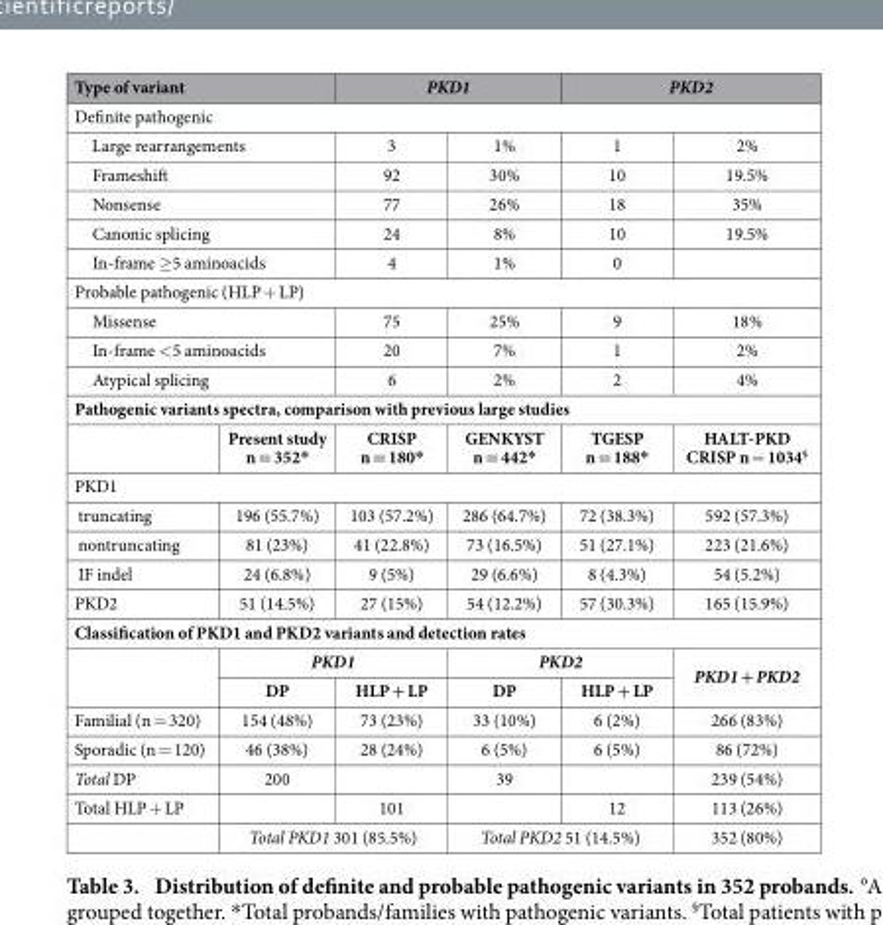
<table><thead><tr><td colspan="2">Type of variant</td><td colspan="2">PKD1</td><td colspan="2">PKD2</td></tr></thead><tbody><tr><td colspan="6">Definite pathogenic</td></tr><tr><td colspan="2">Large rearrangements</td><td>3</td><td>1%</td><td>1</td><td>2%</td></tr><tr><td colspan="2">Frameshift</td><td>92</td><td>30%</td><td>10</td><td>19.5%</td></tr><tr><td colspan="2">Nonsense</td><td>77</td><td>26%</td><td>18</td><td>35%</td></tr><tr><td colspan="2">Canonic splicing</td><td>24</td><td>8%</td><td>10</td><td>19.5%</td></tr><tr><td colspan="2">In-frame ≥ 5 aminoacids</td><td>4</td><td>1%</td><td>0</td><td></td></tr><tr><td colspan="6">Probable pathogenic (HLP + LP)</td></tr><tr><td colspan="2">Missense</td><td>75</td><td>25%</td><td>9</td><td>18%</td></tr><tr><td colspan="2">In-frame &lt; 5 aminoacids</td><td>20</td><td>7%</td><td>1</td><td>2%</td></tr><tr><td colspan="2">Atypical splicing</td><td>6</td><td>2%</td><td>2</td><td>4%</td></tr><tr><td colspan="6">Pathogenic variants spectra, comparison with previous large studies</td></tr><tr><td></td><td>Present study n = 352*</td><td>CRISP n = 180*</td><td>GENKYST n = 442*</td><td>TGESP n = 188*</td><td>HALT-PKD CRISP n = 1034<sup>§</sup></td></tr><tr><td colspan="6">PKD1</td></tr><tr><td>truncating</td><td>196 (55.7%)</td><td>103 (57.2%)</td><td>286 (64.7%)</td><td>72 (38.3%)</td><td>592 (57.3%)</td></tr><tr><td>nontruncating</td><td>81 (23%)</td><td>41 (22.8%)</td><td>73 (16.5%)</td><td>51 (27.1%)</td><td>223 (21.6%)</td></tr><tr><td>IF indel</td><td>24 (6.8%)</td><td>9 (5%)</td><td>29 (6.6%)</td><td>8 (4.3%)</td><td>54 (5.2%)</td></tr><tr><td>PKD2</td><td>51 (14.5%)</td><td>27 (15%)</td><td>54 (12.2%)</td><td>57 (30.3%)</td><td>165 (15.9%)</td></tr><tr><td colspan="6">Classification of PKD1 and PKD2 variants and detection rates</td></tr><tr><td rowspan="2"></td><td colspan="2">PKD1</td><td colspan="2">PKD2</td><td rowspan="2">PKD1 + PKD2</td></tr><tr><td>DP</td><td>HLP + LP</td><td>DP</td><td>HLP + LP</td></tr><tr><td>Familial (n = 320)</td><td>154 (48%)</td><td>73 (23%)</td><td>33 (10%)</td><td>6 (2%)</td><td>266 (83%)</td></tr><tr><td>Sporadic (n = 120)</td><td>46 (38%)</td><td>28 (24%)</td><td>6 (5%)</td><td>6 (5%)</td><td>86 (72%)</td></tr><tr><td>Total DP</td><td>200</td><td></td><td>39</td><td></td><td>239 (54%)</td></tr><tr><td rowspan="2">Total HLP + LP</td><td></td><td>101</td><td></td><td>12</td><td>113 (26%)</td></tr><tr><td colspan="2">Total PKD1 301 (85.5%)</td><td colspan="2">Total PKD2 51 (14.5%)</td><td>352 (80%)</td></tr></tbody></table>